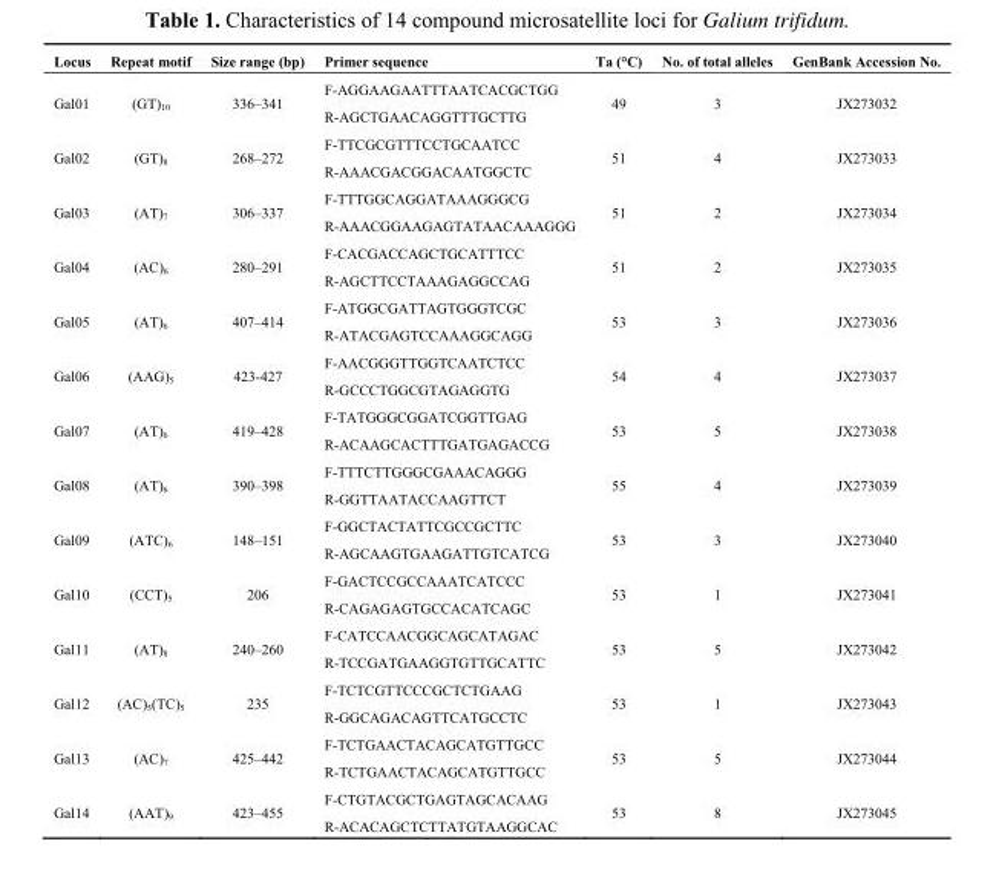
<table><thead><tr><td>Locus</td><td>Repeat motif</td><td>Size range (bp)</td><td>Primer sequence</td><td>Ta (°C)</td><td>No. of total alleles</td><td>GenBank Accession No.</td></tr></thead><tbody><tr><td>Gal01</td><td>(GT)<sub>10</sub></td><td>336–341</td><td>F-AGGAAGAATTTAATCACGCTGG R-AGCTGAACAGGTTTGCTTG</td><td>49</td><td>3</td><td>JX273032</td></tr><tr><td>Gal02</td><td>(GT)<sub>8</sub></td><td>268–272</td><td>F-TTCGCGTTTCCTGCAATCC R-AAACGACGGACAATGGCTC</td><td>51</td><td>4</td><td>JX273033</td></tr><tr><td>Gal03</td><td>(AT)<sub>7</sub></td><td>306–337</td><td>F-TTTGGCAGGATAAAGGGCG R-AAACGGAAGAGTATAACAAAGGG</td><td>51</td><td>2</td><td>JX273034</td></tr><tr><td>Gal04</td><td>(AC)<sub>6</sub></td><td>280–291</td><td>F-CACGACCAGCTGCATTTCC R-AGCTTCCTAAAGAGGCCAG</td><td>51</td><td>2</td><td>JX273035</td></tr><tr><td>Gal05</td><td>(AT)<sub>6</sub></td><td>407–414</td><td>F-ATGGCGATTAGTGGGTCGC R-ATACGAGTCCAAAGGCAGG</td><td>53</td><td>3</td><td>JX273036</td></tr><tr><td>Gal06</td><td>(AAG)<sub>5</sub></td><td>423-427</td><td>F-AACGGGTTGGTCAATCTCC R-GCCCTGGCGTAGAGGTG</td><td>54</td><td>4</td><td>JX273037</td></tr><tr><td>Gal07</td><td>(AT)<sub>6</sub></td><td>419–428</td><td>F-TATGGGCGGATCGGTTGAG R-ACAAGCACTTTGATGAGACCG</td><td>53</td><td>5</td><td>JX273038</td></tr><tr><td>Gal08</td><td>(AT)<sub>6</sub></td><td>390–398</td><td>F-TTTCTTGGGCGAAACAGGG R-GGTTAATACCAAGTTCT</td><td>55</td><td>4</td><td>JX273039</td></tr><tr><td>Gal09</td><td>(ATC)<sub>6</sub></td><td>148–151</td><td>F-GGCTACTATTCGCCGCTTC R-AGCAAGTGAAGATTGTCATCG</td><td>53</td><td>3</td><td>JX273040</td></tr><tr><td>Gal10</td><td>(CCT)<sub>5</sub></td><td>206</td><td>F-GACTCCGCCAAATCATCCC R-CAGAGAGTGCCACATCAGC</td><td>53</td><td>1</td><td>JX273041</td></tr><tr><td>Gal11</td><td>(AT)<sub>8</sub></td><td>240–260</td><td>F-CATCCAACGGCAGCATAGAC R-TCCGATGAAGGTGTTGCATTC</td><td>53</td><td>5</td><td>JX273042</td></tr><tr><td>Gal12</td><td>(AC)<sub>5</sub>(TC)<sub>5</sub></td><td>235</td><td>F-TCTCGTTCCCGCTCTGAAG R-GGCAGACAGTTCATGCCTC</td><td>53</td><td>1</td><td>JX273043</td></tr><tr><td>Gal13</td><td>(AC)<sub>7</sub></td><td>425–442</td><td>F-TCTGAACTACAGCATGTTGCC R-TCTGAACTACAGCATGTTGCC</td><td>53</td><td>5</td><td>JX273044</td></tr><tr><td>Gal14</td><td>(AAT)<sub>9</sub></td><td>423–455</td><td>F-CTGTACGCTGAGTAGCACAAG R-ACACAGCTCTTATGTAAGGCAC</td><td>53</td><td>8</td><td>JX273045</td></tr></tbody></table>